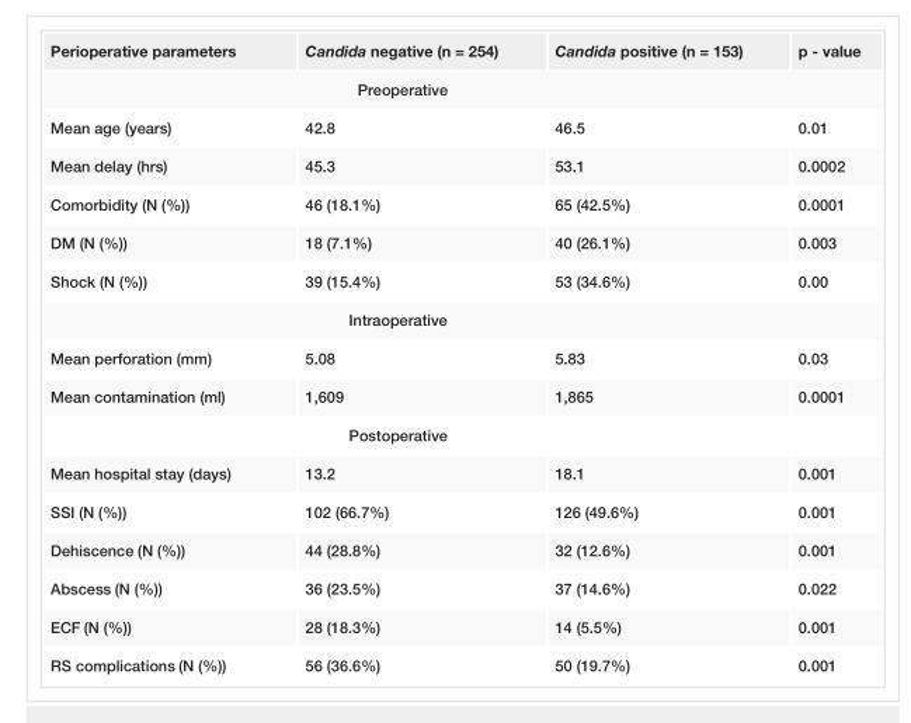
<table><tbody><tr><td>Perioperative parameters</td><td>Candida negative (n = 254)</td><td>Candida positive (n = 153)</td><td>p - value</td></tr><tr><td colspan="4">Preoperative</td></tr><tr><td>Mean age (years)</td><td>42.8</td><td>46.5</td><td>0.01</td></tr><tr><td>Mean delay (hrs)</td><td>45.3</td><td>53.1</td><td>0.0002</td></tr><tr><td>Comorbidity (N (%))</td><td>46 (18.1%)</td><td>65 (42.5%)</td><td>0.0001</td></tr><tr><td>DM (N (%))</td><td>18 (7.1%)</td><td>40 (26.1%)</td><td>0.003</td></tr><tr><td>Shock (N (%))</td><td>39 (15.4%)</td><td>53 (34.6%)</td><td>0.00</td></tr><tr><td colspan="4">Intraoperative</td></tr><tr><td>Mean perforation (mm)</td><td>5.08</td><td>5.83</td><td>0.03</td></tr><tr><td>Mean contamination (ml)</td><td>1,609</td><td>1,865</td><td>0.0001</td></tr><tr><td colspan="4">Postoperative</td></tr><tr><td>Mean hospital stay (days)</td><td>13.2</td><td>18.1</td><td>0.001</td></tr><tr><td>SSI (N (%))</td><td>102 (66.7%)</td><td>126 (49.6%)</td><td>0.001</td></tr><tr><td>Dehiscence (N (%))</td><td>44 (28.8%)</td><td>32 (12.6%)</td><td>0.001</td></tr><tr><td>Abscess (N (%))</td><td>36 (23.5%)</td><td>37 (14.6%)</td><td>0.022</td></tr><tr><td>ECF (N (%))</td><td>28 (18.3%)</td><td>14 (5.5%)</td><td>0.001</td></tr><tr><td>RS complications (N (%))</td><td>56 (36.6%)</td><td>50 (19.7%)</td><td>0.001</td></tr></tbody></table>